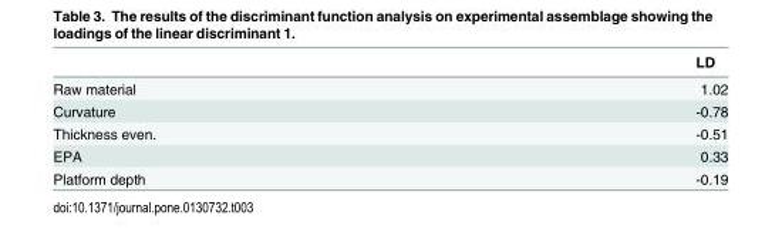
<table><thead><tr><td></td><td>LD</td></tr></thead><tbody><tr><td>Raw material</td><td>1.02</td></tr><tr><td>Curvature</td><td>-0.78</td></tr><tr><td>Thickness even.</td><td>-0.51</td></tr><tr><td>EPA</td><td>0.33</td></tr><tr><td>Platform depth</td><td>-0.19</td></tr></tbody></table>